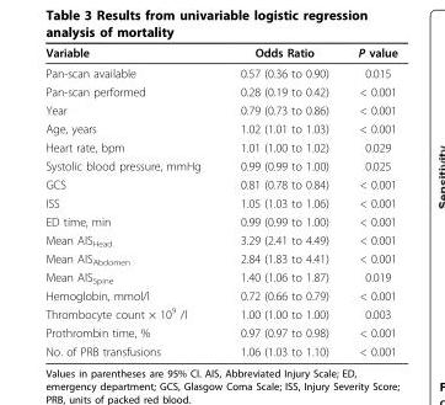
<table><thead><tr><td>Variable</td><td>Odds Ratio</td><td>P value</td></tr></thead><tbody><tr><td>Pan-scan available</td><td>0.57 (0.36 to 0.90)</td><td>0.015</td></tr><tr><td>Pan-scan performed</td><td>0.28 (0.19 to 0.42)</td><td>&lt; 0.001</td></tr><tr><td>Year</td><td>0.79 (0.73 to 0.86)</td><td>&lt; 0.001</td></tr><tr><td>Age, years</td><td>1.02 (1.01 to 1.03)</td><td>&lt; 0.001</td></tr><tr><td>Heart rate, bpm</td><td>1.01 (1.00 to 1.02)</td><td>0.029</td></tr><tr><td>Systolic blood pressure, mmHg</td><td>0.99 (0.99 to 1.00)</td><td>0.025</td></tr><tr><td>GCS</td><td>0.81 (0.78 to 0.84)</td><td>&lt; 0.001</td></tr><tr><td>ISS</td><td>1.05 (1.03 to 1.06)</td><td>&lt; 0.001</td></tr><tr><td>ED time, min</td><td>0.99 (0.99 to 1.00)</td><td>&lt; 0.001</td></tr><tr><td>Mean AIS<sub>Head</sub></td><td>3.29 (2.41 to 4.49)</td><td>&lt; 0.001</td></tr><tr><td>Mean AIS<sub>Abdomen</sub></td><td>2.84 (1.83 to 4.41)</td><td>&lt; 0.001</td></tr><tr><td>Mean AIS<sub>Spine</sub></td><td>1.40 (1.06 to 1.87)</td><td>0.019</td></tr><tr><td>Hemoglobin, mmol/l</td><td>0.72 (0.66 to 0.79)</td><td>&lt; 0.001</td></tr><tr><td>Thrombocyte count × 10<sup>9</sup> /l</td><td>1.00 (1.00 to 1.00)</td><td>0.003</td></tr><tr><td>Prothrombin time, %</td><td>0.97 (0.97 to 0.98)</td><td>&lt; 0.001</td></tr><tr><td>No. of PRB transfusions</td><td>1.06 (1.03 to 1.10)</td><td>&lt; 0.001</td></tr></tbody></table>